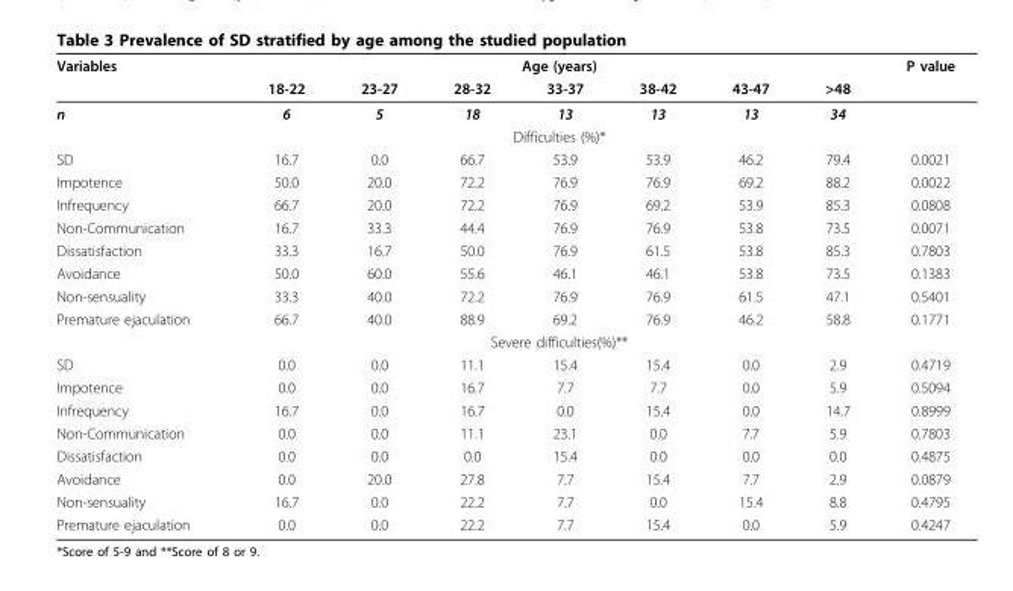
<table><thead><tr><td rowspan="2">Variables</td><td colspan="7">Age (years)</td><td rowspan="2">P value</td></tr><tr><td>18-22</td><td>23-27</td><td>28-32</td><td>33-37</td><td>38-42</td><td>43-47</td><td>&gt;48</td></tr></thead><tbody><tr><td rowspan="2">n</td><td>6</td><td>5</td><td>18</td><td>13</td><td>13</td><td>13</td><td>34</td><td></td></tr><tr><td colspan="7">Difficulties (%)*</td><td></td></tr><tr><td>SD</td><td>16.7</td><td>0.0</td><td>66.7</td><td>53.9</td><td>53.9</td><td>46.2</td><td>79.4</td><td>0.0021</td></tr><tr><td>Impotence</td><td>50.0</td><td>20.0</td><td>72.2</td><td>76.9</td><td>76.9</td><td>69.2</td><td>88.2</td><td>0.0022</td></tr><tr><td>Infrequency</td><td>66.7</td><td>20.0</td><td>72.2</td><td>76.9</td><td>69.2</td><td>53.9</td><td>85.3</td><td>0.0808</td></tr><tr><td>Non-Communication</td><td>16.7</td><td>33.3</td><td>44.4</td><td>76.9</td><td>76.9</td><td>53.8</td><td>73.5</td><td>0.0071</td></tr><tr><td>Dissatisfaction</td><td>33.3</td><td>16.7</td><td>50.0</td><td>76.9</td><td>61.5</td><td>53.8</td><td>85.3</td><td>0.7803</td></tr><tr><td>Avoidance</td><td>50.0</td><td>60.0</td><td>55.6</td><td>46.1</td><td>46.1</td><td>53.8</td><td>73.5</td><td>0.1383</td></tr><tr><td>Non-sensuality</td><td>33.3</td><td>40.0</td><td>72.2</td><td>76.9</td><td>76.9</td><td>61.5</td><td>47.1</td><td>0.5401</td></tr><tr><td rowspan="2">Premature ejaculation</td><td>66.7</td><td>40.0</td><td>88.9</td><td>69.2</td><td>76.9</td><td>46.2</td><td>58.8</td><td>0.1771</td></tr><tr><td colspan="7">Severe difficulties(%)**</td><td></td></tr><tr><td>SD</td><td>0.0</td><td>0.0</td><td>11.1</td><td>15.4</td><td>15.4</td><td>0.0</td><td>2.9</td><td>0.4719</td></tr><tr><td>Impotence</td><td>0.0</td><td>0.0</td><td>16.7</td><td>7.7</td><td>7.7</td><td>0.0</td><td>5.9</td><td>0.5094</td></tr><tr><td>Infrequency</td><td>16.7</td><td>0.0</td><td>16.7</td><td>0.0</td><td>15.4</td><td>0.0</td><td>14.7</td><td>0.8999</td></tr><tr><td>Non-Communication</td><td>0.0</td><td>0.0</td><td>11.1</td><td>23.1</td><td>0.0</td><td>7.7</td><td>5.9</td><td>0.7803</td></tr><tr><td>Dissatisfaction</td><td>0.0</td><td>0.0</td><td>0.0</td><td>15.4</td><td>0.0</td><td>0.0</td><td>0.0</td><td>0.4875</td></tr><tr><td>Avoidance</td><td>0.0</td><td>20.0</td><td>27.8</td><td>7.7</td><td>15.4</td><td>7.7</td><td>2.9</td><td>0.0879</td></tr><tr><td>Non-sensuality</td><td>16.7</td><td>0.0</td><td>22.2</td><td>7.7</td><td>0.0</td><td>15.4</td><td>8.8</td><td>0.4795</td></tr><tr><td>Premature ejaculation</td><td>0.0</td><td>0.0</td><td>22.2</td><td>7.7</td><td>15.4</td><td>0.0</td><td>5.9</td><td>0.4247</td></tr></tbody></table>